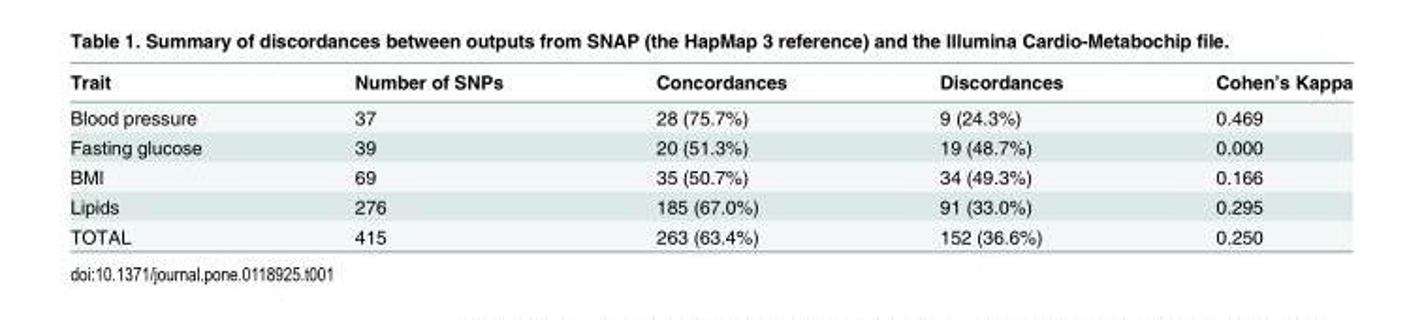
<table><thead><tr><td>Trait</td><td>Number of SNPs</td><td>Concordances</td><td>Discordances</td><td>Cohen’s Kappa</td></tr></thead><tbody><tr><td>Blood pressure</td><td>37</td><td>28 (75.7%)</td><td>9 (24.3%)</td><td>0.469</td></tr><tr><td>Fasting glucose</td><td>39</td><td>20 (51.3%)</td><td>19 (48.7%)</td><td>0.000</td></tr><tr><td>BMI</td><td>69</td><td>35 (50.7%)</td><td>34 (49.3%)</td><td>0.166</td></tr><tr><td>Lipids</td><td>276</td><td>185 (67.0%)</td><td>91 (33.0%)</td><td>0.295</td></tr><tr><td>TOTAL</td><td>415</td><td>263 (63.4%)</td><td>152 (36.6%)</td><td>0.250</td></tr></tbody></table>